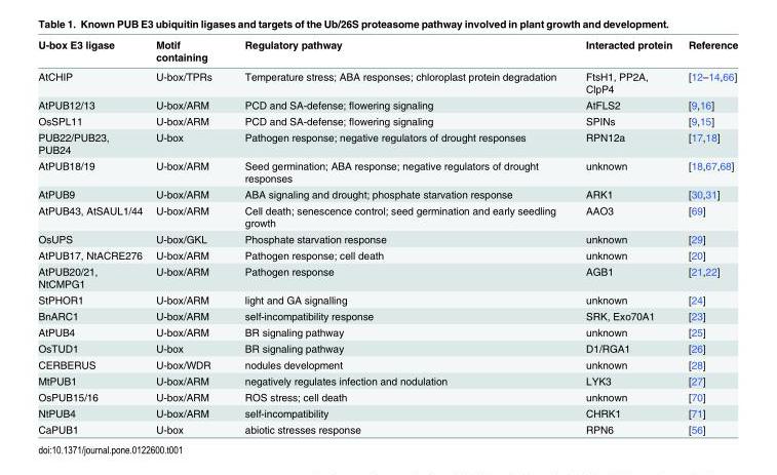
<table><thead><tr><td>U-box E3 ligase</td><td>Motif containing</td><td>Regulatory pathway</td><td>Interacted protein</td><td>Reference</td></tr></thead><tbody><tr><td>AtCHIP</td><td>U-box/TPRs</td><td>Temperature stress; ABA responses; chloroplast protein degradation</td><td>FtsH1, PP2A, ClpP4</td><td>[12–14,66]</td></tr><tr><td>AtPUB12/13</td><td>U-box/ARM</td><td>PCD and SA-defense; flowering signaling</td><td>AtFLS2</td><td>[9,16]</td></tr><tr><td>OsSPL11</td><td>U-box/ARM</td><td>PCD and SA-defense; flowering signaling</td><td>SPINs</td><td>[9,15]</td></tr><tr><td>PUB22/PUB23, PUB24</td><td>U-box</td><td>Pathogen response; negative regulators of drought responses</td><td>RPN12a</td><td>[17,18]</td></tr><tr><td>AtPUB18/19</td><td>U-box/ARM</td><td>Seed germination; ABA response; negative regulators of drought responses</td><td>unknown</td><td>[18,67,68]</td></tr><tr><td>AtPUB9</td><td>U-box/ARM</td><td>ABA signaling and drought; phosphate starvation response</td><td>ARK1</td><td>[30,31]</td></tr><tr><td>AtPUB43, AtSAUL1/44</td><td>U-box/ARM</td><td>Cell death; senescence control; seed germination and early seedling growth</td><td>AAO3</td><td>[69]</td></tr><tr><td>OsUPS</td><td>U-box/GKL</td><td>Phosphate starvation response</td><td>unknown</td><td>[29]</td></tr><tr><td>AtPUB17, NtACRE276</td><td>U-box/ARM</td><td>Pathogen response; cell death</td><td>unknown</td><td>[20]</td></tr><tr><td>AtPUB20/21, NtCMPG1</td><td>U-box/ARM</td><td>Pathogen response</td><td>AGB1</td><td>[21,22]</td></tr><tr><td>StPHOR1</td><td>U-box/ARM</td><td>light and GA signalling</td><td>unknown</td><td>[24]</td></tr><tr><td>BnARC1</td><td>U-box/ARM</td><td>self-incompatibility response</td><td>SRK, Exo70A1</td><td>[23]</td></tr><tr><td>AtPUB4</td><td>U-box/ARM</td><td>BR signaling pathway</td><td>unknown</td><td>[25]</td></tr><tr><td>OsTUD1</td><td>U-box</td><td>BR signaling pathway</td><td>D1/RGA1</td><td>[26]</td></tr><tr><td>CERBERUS</td><td>U-box/WDR</td><td>nodules development</td><td>unknown</td><td>[28]</td></tr><tr><td>MtPUB1</td><td>U-box/ARM</td><td>negatively regulates infection and nodulation</td><td>LYK3</td><td>[27]</td></tr><tr><td>OsPUB15/16</td><td>U-box/ARM</td><td>ROS stress; cell death</td><td>unknown</td><td>[70]</td></tr><tr><td>NtPUB4</td><td>U-box/ARM</td><td>self-incompatibility</td><td>CHRK1</td><td>[71]</td></tr><tr><td>CaPUB1</td><td>U-box</td><td>abiotic stresses response</td><td>RPN6</td><td>[56]</td></tr></tbody></table>